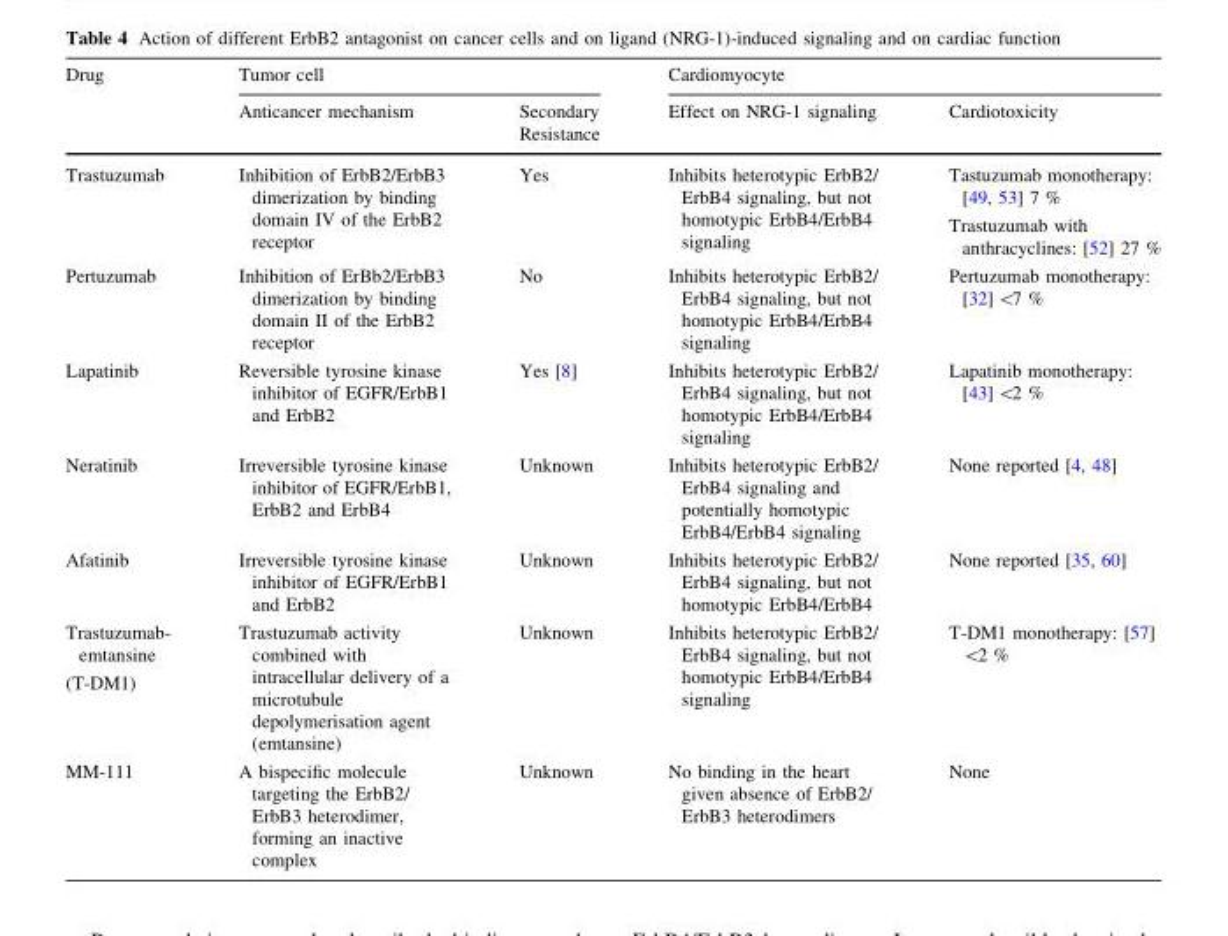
<table><thead><tr><td rowspan="2">Drug</td><td colspan="2">Tumor cell</td><td colspan="2">Cardiomyocyte</td></tr><tr><td>Anticancer mechanism</td><td>Secondary Resistance</td><td>Effect on NRG-1 signaling</td><td>Cardiotoxicity</td></tr></thead><tbody><tr><td>Trastuzumab</td><td>Inhibition of ErbB2/ErbB3 dimerization by binding domain IV of the ErbB2 receptor</td><td>Yes</td><td>Inhibits heterotypic ErbB2/ ErbB4 signaling, but not homotypic ErbB4/ErbB4 signaling</td><td>Tastuzumab monotherapy: [49, 53] 7 % Trastuzumab with anthracyclines: [52] 27 %</td></tr><tr><td>Pertuzumab</td><td>Inhibition of ErBb2/ErbB3 dimerization by binding domain II of the ErbB2 receptor</td><td>No</td><td>Inhibits heterotypic ErbB2/ ErbB4 signaling, but not homotypic ErbB4/ErbB4 signaling</td><td>Pertuzumab monotherapy: [32] &lt;7 %</td></tr><tr><td>Lapatinib</td><td>Reversible tyrosine kinase inhibitor of EGFR/ErbB1 and ErbB2</td><td>Yes [8]</td><td>Inhibits heterotypic ErbB2/ ErbB4 signaling, but not homotypic ErbB4/ErbB4 signaling</td><td>Lapatinib monotherapy: [43] &lt;2 %</td></tr><tr><td>Neratinib</td><td>Irreversible tyrosine kinase inhibitor of EGFR/ErbB1, ErbB2 and ErbB4</td><td>Unknown</td><td>Inhibits heterotypic ErbB2/ ErbB4 signaling and potentially homotypic ErbB4/ErbB4 signaling</td><td>None reported [4, 48]</td></tr><tr><td>Afatinib</td><td>Irreversible tyrosine kinase inhibitor of EGFR/ErbB1 and ErbB2</td><td>Unknown</td><td>Inhibits heterotypic ErbB2/ ErbB4 signaling, but not homotypic ErbB4/ErbB4</td><td>None reported [35, 60]</td></tr><tr><td>Trastuzumab- emtansine (T-DM1)</td><td>Trastuzumab activity combined with intracellular delivery of a microtubule depolymerisation agent (emtansine)</td><td>Unknown</td><td>Inhibits heterotypic ErbB2/ ErbB4 signaling, but not homotypic ErbB4/ErbB4 signaling</td><td>T-DM1 monotherapy: [57] &lt;2 %</td></tr><tr><td>MM-111</td><td>A bispecific molecule targeting the ErbB2/ ErbB3 heterodimer, forming an inactive complex</td><td>Unknown</td><td>No binding in the heart given absence of ErbB2/ ErbB3 heterodimers</td><td>None</td></tr></tbody></table>